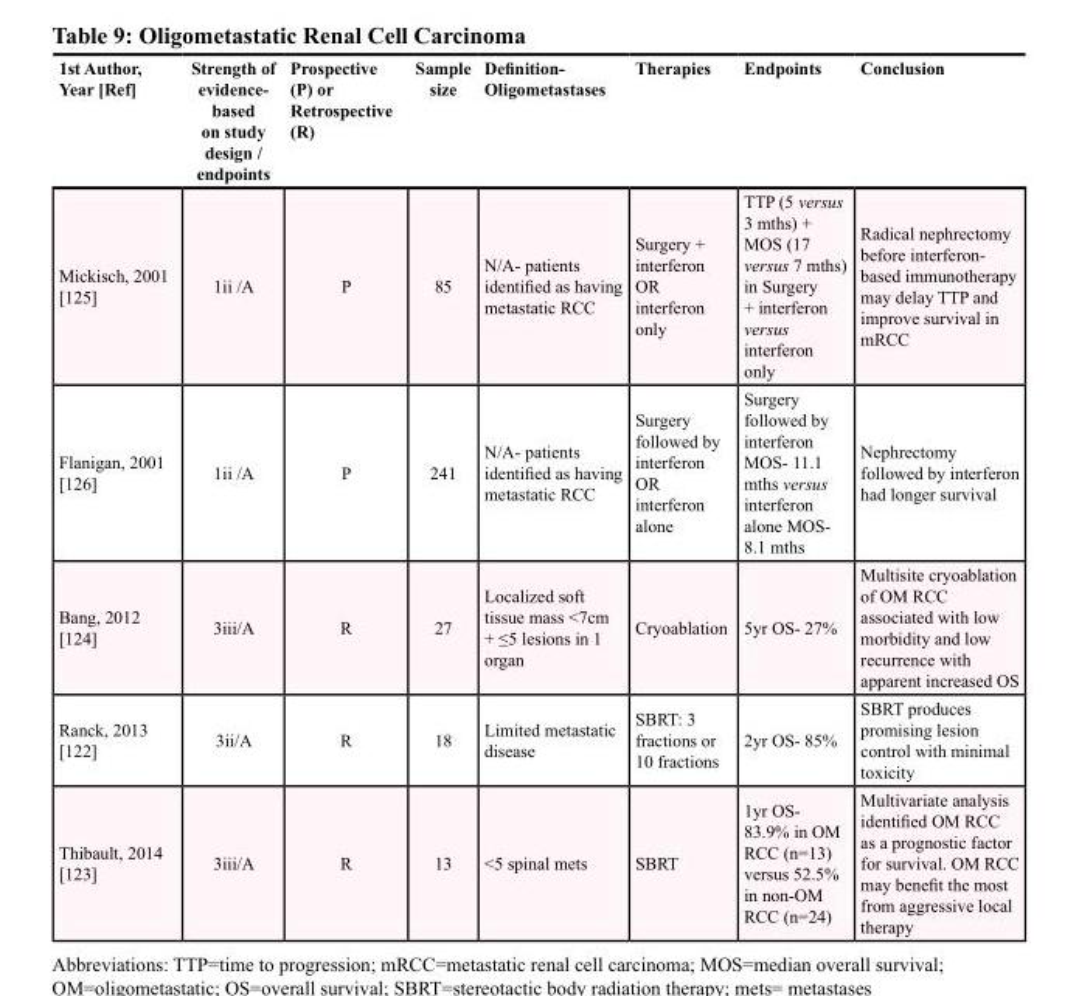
<table><thead><tr><td>1st Author, Year [Ref]</td><td>Strength of evidence based on study design / endpoints</td><td>Prospective (P) or Retrospective (R)</td><td>Sample size</td><td>Definition- Oligometastases</td><td>Therapies</td><td>Endpoints</td><td>Conclusion</td></tr></thead><tbody><tr><td>Mickisch, 2001 [125]</td><td>1ii /A</td><td>P</td><td>85</td><td>N/A- patients identified as having metastatic RCC</td><td>Surgery + interferon OR interferon only</td><td>TTP (5 versus 3 mths) + MOS (17 versus 7 mths) in Surgery + interferon versus interferon only</td><td>Radical nephrectomy before interferon- based immunotherapy may delay TTP and improve survival in mRCC</td></tr><tr><td>Flanigan, 2001 [126]</td><td>1ii /A</td><td>P</td><td>241</td><td>N/A- patients identified as having metastatic RCC</td><td>Surgery followed by interferon OR interferon alone</td><td>Surgery followed by interferon MOS- 11.1 mths versus interferon alone MOS- 8.1 mths</td><td>Nephrectomy followed by interferon had longer survival</td></tr><tr><td>Bang, 2012 [124]</td><td>3iii/A</td><td>R</td><td>27</td><td>Localized soft tissue mass &lt;7cm + ≤5 lesions in 1 organ</td><td>Cryoablation</td><td>5yr OS- 27%</td><td>Multisite cryoablation of OM RCC associated with low morbidity and low recurrence with apparent increased OS</td></tr><tr><td>Ranck, 2013 [122]</td><td>3ii/A</td><td>R</td><td>18</td><td>Limited metastatic disease</td><td>SBRT: 3 fractions or 10 fractions</td><td>2yr OS- 85%</td><td>SBRT produces promising lesion control with minimal toxicity</td></tr><tr><td>Thibault, 2014 [123]</td><td>3iii/A</td><td>R</td><td>13</td><td>&lt;5 spinal mets</td><td>SBRT</td><td>1yr OS- 83.9% in OM RCC (n=13) versus 52.5% in non-OM RCC (n=24)</td><td>Multivariate analysis identified OM RCC as a prognostic factor for survival. OM RCC may benefit the most from aggressive local therapy</td></tr></tbody></table>